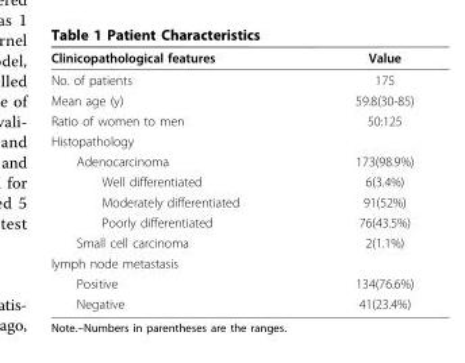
<table><thead><tr><td>Clinicopathological features</td><td>Value</td></tr></thead><tbody><tr><td>No. of patients</td><td>175</td></tr><tr><td>Mean age (y)</td><td>59.8(30-85)</td></tr><tr><td>Ratio of women to men</td><td>50:125</td></tr><tr><td colspan="2">Histopathology</td></tr><tr><td>Adenocarcinoma</td><td>173(98.9%)</td></tr><tr><td>Well differentiated</td><td>6(3.4%)</td></tr><tr><td>Moderately differentiated</td><td>91(52%)</td></tr><tr><td>Poorly differentiated</td><td>76(43.5%)</td></tr><tr><td>Small cell carcinoma</td><td>2(1.1%)</td></tr><tr><td colspan="2">lymph node metastasis</td></tr><tr><td>Positive</td><td>134(76.6%)</td></tr><tr><td>Negative</td><td>41(23.4%)</td></tr></tbody></table>